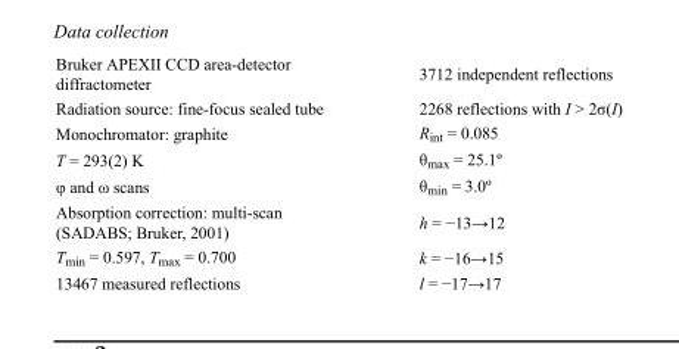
<table><tbody><tr><td>Bruker APEXII CCD area-detector diffractometer</td><td>3712 independent reflections</td></tr><tr><td>Radiation source: fine-focus sealed tube</td><td>2268 reflections with I &gt; 2σ(I)</td></tr><tr><td>Monochromator: graphite</td><td>R<sub>int</sub> = 0.085</td></tr><tr><td>T = 293(2) K</td><td>θ<sub>max</sub> = 25.1º</td></tr><tr><td>φ and ω scans</td><td>θ<sub>min</sub> = 3.0º</td></tr><tr><td>Absorption correction: multi-scan (SADABS; Bruker, 2001)</td><td>h = −13→12</td></tr><tr><td>T<sub>min</sub> = 0.597, T<sub>max</sub> = 0.700</td><td>k = −16→15</td></tr><tr><td>13467 measured reflections</td><td>l = −17→17</td></tr></tbody></table>